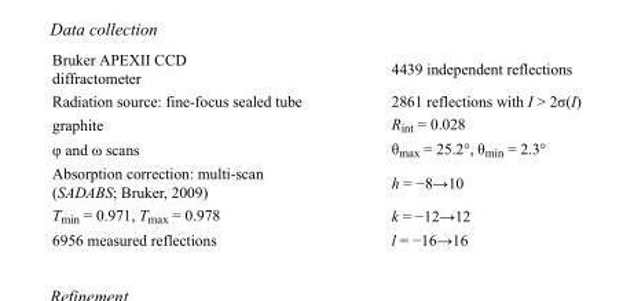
<table><tbody><tr><td>Bruker APEXII CCD diffractometer</td><td>4439 independent reflections</td></tr><tr><td>Radiation source: fine-focus sealed tube</td><td>2861 reflections with I &gt; 2σ(I)</td></tr><tr><td>graphite</td><td>R<sub>int</sub> = 0.028</td></tr><tr><td>φ and ω scans</td><td>θ<sub>max</sub> = 25.2°, θ<sub>min</sub> = 2.3°</td></tr><tr><td>Absorption correction: multi-scan (SADABS; Bruker, 2009)</td><td>h = −8→10</td></tr><tr><td>T<sub>min</sub> = 0.971, T<sub>max</sub> = 0.978</td><td>k = −12→12</td></tr><tr><td>6956 measured reflections</td><td>l = −16→16</td></tr></tbody></table>